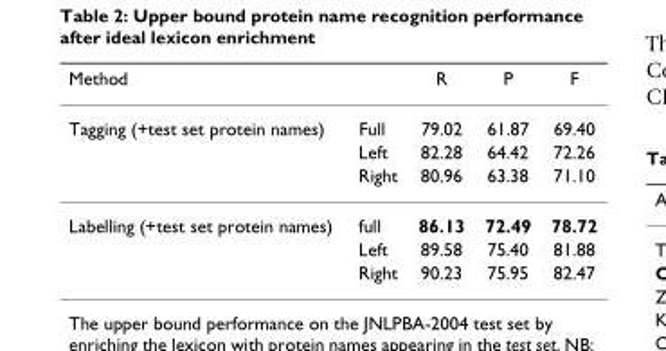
<table><thead><tr><td>Method</td><td></td><td>R</td><td>P</td><td>F</td></tr></thead><tbody><tr><td rowspan="3">Tagging (+test set protein names)</td><td>Full</td><td>79.02</td><td>61.87</td><td>69.40</td></tr><tr><td>Left</td><td>82.28</td><td>64.42</td><td>72.26</td></tr><tr><td>Right</td><td>80.96</td><td>63.38</td><td>71.10</td></tr><tr><td rowspan="3">Labelling (+test set protein names)</td><td>full</td><td>86.13</td><td>72.49</td><td>78.72</td></tr><tr><td>Left</td><td>89.58</td><td>75.40</td><td>81.88</td></tr><tr><td>Right</td><td>90.23</td><td>75.95</td><td>82.47</td></tr></tbody></table>